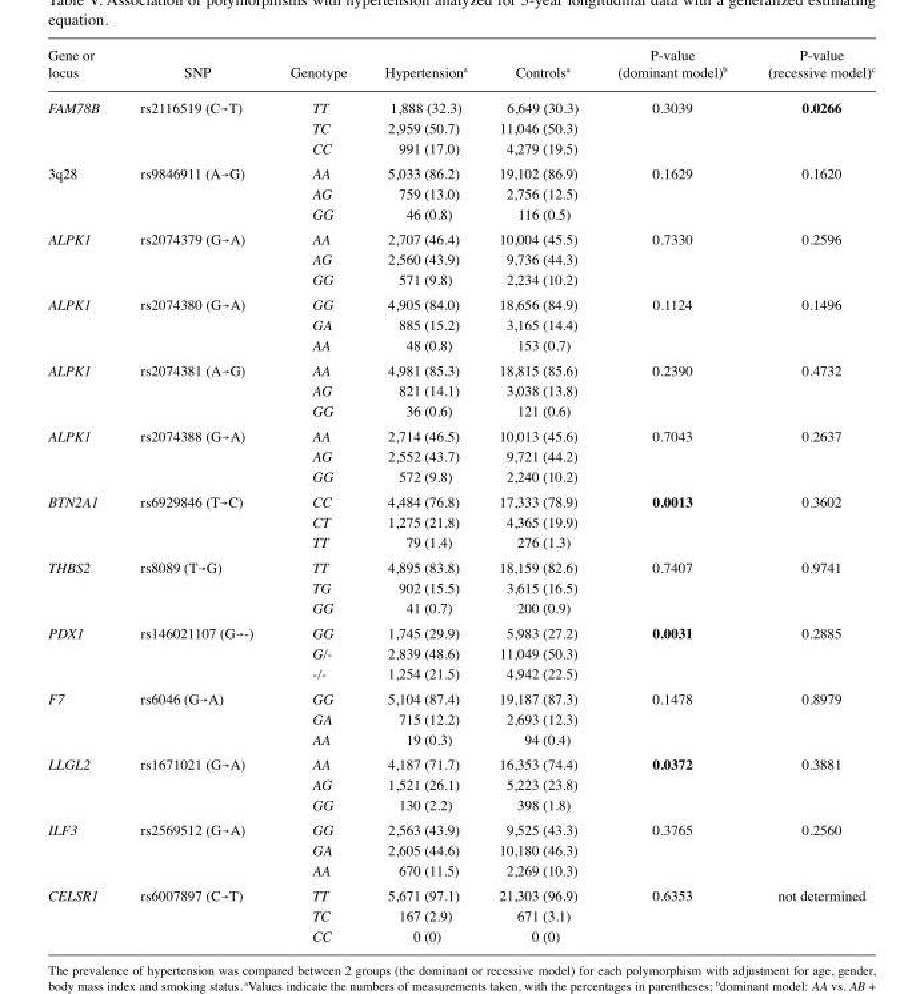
<table><thead><tr><td>Gene or locus</td><td>SNP</td><td>Genotype</td><td>Hypertension<sup>a</sup></td><td>Controls<sup>a</sup></td><td>P-value (dominant model)<sup>b</sup></td><td>P-value (recessive model)<sup>c</sup></td></tr></thead><tbody><tr><td rowspan="3">FAM78B</td><td>rs2116519 (C→T)</td><td>TT</td><td>1,888 (32.3)</td><td>6,649 (30.3)</td><td>0.3039</td><td>0.0266</td></tr><tr><td></td><td>TC</td><td>2,959 (50.7)</td><td>11,046 (50.3)</td><td></td><td></td></tr><tr><td></td><td>CC</td><td>991 (17.0)</td><td>4,279 (19.5)</td><td></td><td></td></tr><tr><td rowspan="3">3q28</td><td>rs9846911 (A→G)</td><td>AA</td><td>5,033 (86.2)</td><td>19,102 (86.9)</td><td>0.1629</td><td>0.1620</td></tr><tr><td></td><td>AG</td><td>759 (13.0)</td><td>2,756 (12.5)</td><td></td><td></td></tr><tr><td></td><td>GG</td><td>46 (0.8)</td><td>116 (0.5)</td><td></td><td></td></tr><tr><td rowspan="3">ALPK1</td><td>rs2074379 (G→A)</td><td>AA</td><td>2,707 (46.4)</td><td>10,004 (45.5)</td><td>0.7330</td><td>0.2596</td></tr><tr><td></td><td>AG</td><td>2,560 (43.9)</td><td>9,736 (44.3)</td><td></td><td></td></tr><tr><td></td><td>GG</td><td>571 (9.8)</td><td>2,234 (10.2)</td><td></td><td></td></tr><tr><td rowspan="3">ALPK1</td><td>rs2074380 (G→A)</td><td>GG</td><td>4,905 (84.0)</td><td>18,656 (84.9)</td><td>0.1124</td><td>0.1496</td></tr><tr><td></td><td>GA</td><td>885 (15.2)</td><td>3,165 (14.4)</td><td></td><td></td></tr><tr><td></td><td>AA</td><td>48 (0.8)</td><td>153 (0.7)</td><td></td><td></td></tr><tr><td rowspan="3">ALPK1</td><td>rs2074381 (A→G)</td><td>AA</td><td>4,981 (85.3)</td><td>18,815 (85.6)</td><td>0.2390</td><td>0.4732</td></tr><tr><td></td><td>AG</td><td>821 (14.1)</td><td>3,038 (13.8)</td><td></td><td></td></tr><tr><td></td><td>GG</td><td>36 (0.6)</td><td>121 (0.6)</td><td></td><td></td></tr><tr><td rowspan="3">ALPK1</td><td>rs2074388 (G→A)</td><td>AA</td><td>2,714 (46.5)</td><td>10,013 (45.6)</td><td>0.7043</td><td>0.2637</td></tr><tr><td></td><td>AG</td><td>2,552 (43.7)</td><td>9,721 (44.2)</td><td></td><td></td></tr><tr><td></td><td>GG</td><td>572 (9.8)</td><td>2,240 (10.2)</td><td></td><td></td></tr><tr><td rowspan="3">BTN2A1</td><td>rs6929846 (T→C)</td><td>CC</td><td>4,484 (76.8)</td><td>17,333 (78.9)</td><td>0.0013</td><td>0.3602</td></tr><tr><td></td><td>CT</td><td>1,275 (21.8)</td><td>4,365 (19.9)</td><td></td><td></td></tr><tr><td></td><td>TT</td><td>79 (1.4)</td><td>276 (1.3)</td><td></td><td></td></tr><tr><td rowspan="3">THBS2</td><td>rs8089 (T→G)</td><td>TT</td><td>4,895 (83.8)</td><td>18,159 (82.6)</td><td>0.7407</td><td>0.9741</td></tr><tr><td></td><td>TG</td><td>902 (15.5)</td><td>3,615 (16.5)</td><td></td><td></td></tr><tr><td></td><td>GG</td><td>41 (0.7)</td><td>200 (0.9)</td><td></td><td></td></tr><tr><td rowspan="3">PDX1</td><td>rs146021107 (G→-)</td><td>GG</td><td>1,745 (29.9)</td><td>5,983 (27.2)</td><td>0.0031</td><td>0.2885</td></tr><tr><td></td><td>G/-</td><td>2,839 (48.6)</td><td>11,049 (50.3)</td><td></td><td></td></tr><tr><td></td><td>-/-</td><td>1,254 (21.5)</td><td>4,942 (22.5)</td><td></td><td></td></tr><tr><td rowspan="3">F7</td><td>rs6046 (G→A)</td><td>GG</td><td>5,104 (87.4)</td><td>19,187 (87.3)</td><td>0.1478</td><td>0.8979</td></tr><tr><td></td><td>GA</td><td>715 (12.2)</td><td>2,693 (12.3)</td><td></td><td></td></tr><tr><td></td><td>AA</td><td>19 (0.3)</td><td>94 (0.4)</td><td></td><td></td></tr><tr><td rowspan="3">LLGL2</td><td>rs1671021 (G→A)</td><td>AA</td><td>4,187 (71.7)</td><td>16,353 (74.4)</td><td>0.0372</td><td>0.3881</td></tr><tr><td></td><td>AG</td><td>1,521 (26.1)</td><td>5,223 (23.8)</td><td></td><td></td></tr><tr><td></td><td>GG</td><td>130 (2.2)</td><td>398 (1.8)</td><td></td><td></td></tr><tr><td rowspan="3">ILF3</td><td>rs2569512 (G→A)</td><td>GG</td><td>2,563 (43.9)</td><td>9,525 (43.3)</td><td>0.3765</td><td>0.2560</td></tr><tr><td></td><td>GA</td><td>2,605 (44.6)</td><td>10,180 (46.3)</td><td></td><td></td></tr><tr><td></td><td>AA</td><td>670 (11.5)</td><td>2,269 (10.3)</td><td></td><td></td></tr><tr><td rowspan="3">CELSR1</td><td>rs6007897 (C→T)</td><td>TT</td><td>5,671 (97.1)</td><td>21,303 (96.9)</td><td>0.6353</td><td>not determined</td></tr><tr><td></td><td>TC</td><td>167 (2.9)</td><td>671 (3.1)</td><td></td><td></td></tr><tr><td></td><td>CC</td><td>0 (0)</td><td>0 (0)</td><td></td><td></td></tr></tbody></table>